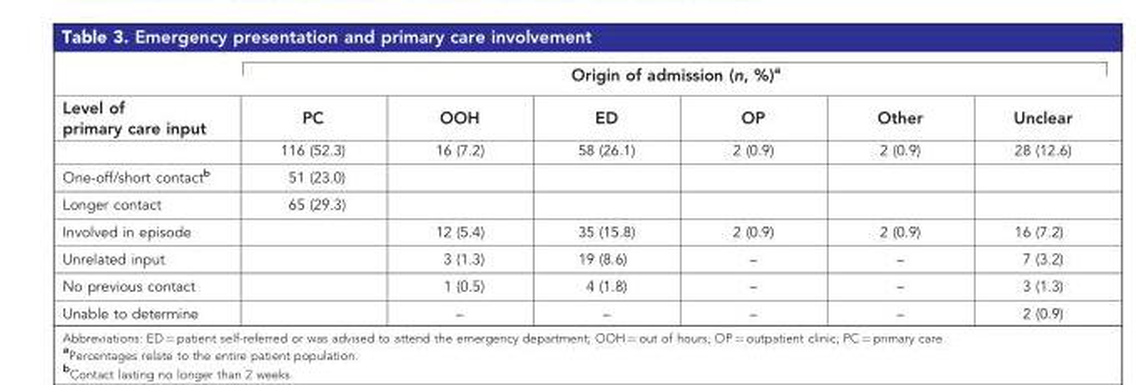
<table><thead><tr><td rowspan="2">Level of primary care input</td><td colspan="6">Origin of admission (n, %)<sup>a</sup></td></tr><tr><td>PC</td><td>OOH</td><td>ED</td><td>OP</td><td>Other</td><td>Unclear</td></tr></thead><tbody><tr><td></td><td>116 (52.3)</td><td>16 (7.2)</td><td>58 (26.1)</td><td>2 (0.9)</td><td>2 (0.9)</td><td>28 (12.6)</td></tr><tr><td>One-off/short contact<sup>b</sup></td><td>51 (23.0)</td><td></td><td></td><td></td><td></td><td></td></tr><tr><td>Longer contact</td><td>65 (29.3)</td><td></td><td></td><td></td><td></td><td></td></tr><tr><td>Involved in episode</td><td></td><td>12 (5.4)</td><td>35 (15.8)</td><td>2 (0.9)</td><td>2 (0.9)</td><td>16 (7.2)</td></tr><tr><td>Unrelated input</td><td></td><td>3 (1.3)</td><td>19 (8.6)</td><td>–</td><td>–</td><td>7 (3.2)</td></tr><tr><td>No previous contact</td><td></td><td>1 (0.5)</td><td>4 (1.8)</td><td>–</td><td>–</td><td>3 (1.3)</td></tr><tr><td>Unable to determine</td><td></td><td>–</td><td>–</td><td>–</td><td>–</td><td>2 (0.9)</td></tr></tbody></table>